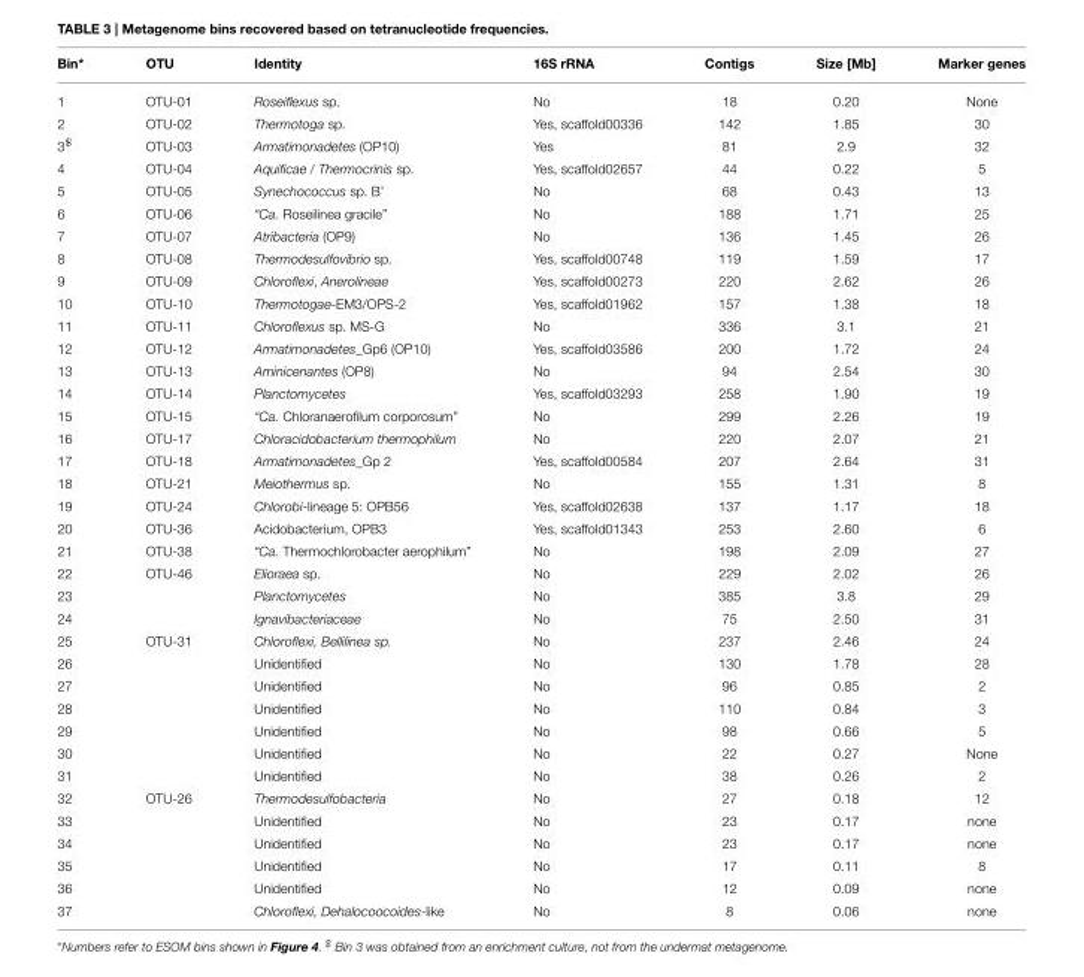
<table><thead><tr><td>Bin*</td><td>OTU</td><td>Identity</td><td>16S rRNA</td><td>Contigs</td><td>Size [Mb]</td><td>Marker genes</td></tr></thead><tbody><tr><td>1</td><td>OTU-01</td><td>Roseiflexus sp.</td><td>No</td><td>18</td><td>0.20</td><td>None</td></tr><tr><td>2</td><td>OTU-02</td><td>Thermotoga sp.</td><td>Yes, scaffold00336</td><td>142</td><td>1.85</td><td>30</td></tr><tr><td>3<sup>$</sup></td><td>OTU-03</td><td>Armatimonadetes (OP10)</td><td>Yes</td><td>81</td><td>2.9</td><td>32</td></tr><tr><td>4</td><td>OTU-04</td><td>Aquificae / Thermocrinis sp.</td><td>Yes, scaffold02657</td><td>44</td><td>0.22</td><td>5</td></tr><tr><td>5</td><td>OTU-05</td><td>Synechococcus sp. B’</td><td>No</td><td>68</td><td>0.43</td><td>13</td></tr><tr><td>6</td><td>OTU-06</td><td>“Ca. Roseilinea gracile”</td><td>No</td><td>188</td><td>1.71</td><td>25</td></tr><tr><td>7</td><td>OTU-07</td><td>Atribacteria (OP9)</td><td>No</td><td>136</td><td>1.45</td><td>26</td></tr><tr><td>8</td><td>OTU-08</td><td>Thermodesulfovibrio sp.</td><td>Yes, scaffold00748</td><td>119</td><td>1.59</td><td>17</td></tr><tr><td>9</td><td>OTU-09</td><td>Chloroflexi, Anerolineae</td><td>Yes, scaffold00273</td><td>220</td><td>2.62</td><td>26</td></tr><tr><td>10</td><td>OTU-10</td><td>Thermotogae-EM3/OPS-2</td><td>Yes, scaffold01962</td><td>157</td><td>1.38</td><td>18</td></tr><tr><td>11</td><td>OTU-11</td><td>Chloroflexus sp. MS-G</td><td>No</td><td>336</td><td>3.1</td><td>21</td></tr><tr><td>12</td><td>OTU-12</td><td>Armatimonadetes_Gp6 (OP10)</td><td>Yes, scaffold03586</td><td>200</td><td>1.72</td><td>24</td></tr><tr><td>13</td><td>OTU-13</td><td>Aminicenantes (OP8)</td><td>No</td><td>94</td><td>2.54</td><td>30</td></tr><tr><td>14</td><td>OTU-14</td><td>Planctomycetes</td><td>Yes, scaffold03293</td><td>258</td><td>1.90</td><td>19</td></tr><tr><td>15</td><td>OTU-15</td><td>“Ca. Chloranaerofilum corporosum”</td><td>No</td><td>299</td><td>2.26</td><td>19</td></tr><tr><td>16</td><td>OTU-17</td><td>Chloracidobacterium thermophilum</td><td>No</td><td>220</td><td>2.07</td><td>21</td></tr><tr><td>17</td><td>OTU-18</td><td>Armatimonadetes_Gp 2</td><td>Yes, scaffold00584</td><td>207</td><td>2.64</td><td>31</td></tr><tr><td>18</td><td>OTU-21</td><td>Meiothermus sp.</td><td>No</td><td>155</td><td>1.31</td><td>8</td></tr><tr><td>19</td><td>OTU-24</td><td>Chlorobi-lineage 5: OPB56</td><td>Yes, scaffold02638</td><td>137</td><td>1.17</td><td>18</td></tr><tr><td>20</td><td>OTU-36</td><td>Acidobacterium, OPB3</td><td>Yes, scaffold01343</td><td>253</td><td>2.60</td><td>6</td></tr><tr><td>21</td><td>OTU-38</td><td>“Ca. Thermochlorobacter aerophilum”</td><td>No</td><td>198</td><td>2.09</td><td>27</td></tr><tr><td>22</td><td>OTU-46</td><td>Elioraea sp.</td><td>No</td><td>229</td><td>2.02</td><td>26</td></tr><tr><td>23</td><td></td><td>Planctomycetes</td><td>No</td><td>385</td><td>3.8</td><td>29</td></tr><tr><td>24</td><td></td><td>Ignavibacteriaceae</td><td>No</td><td>75</td><td>2.50</td><td>31</td></tr><tr><td>25</td><td>OTU-31</td><td>Chloroflexi, Bellilinea sp.</td><td>No</td><td>237</td><td>2.46</td><td>24</td></tr><tr><td>26</td><td></td><td>Unidentified</td><td>No</td><td>130</td><td>1.78</td><td>28</td></tr><tr><td>27</td><td></td><td>Unidentified</td><td>No</td><td>96</td><td>0.85</td><td>2</td></tr><tr><td>28</td><td></td><td>Unidentified</td><td>No</td><td>110</td><td>0.84</td><td>3</td></tr><tr><td>29</td><td></td><td>Unidentified</td><td>No</td><td>98</td><td>0.66</td><td>5</td></tr><tr><td>30</td><td></td><td>Unidentified</td><td>No</td><td>22</td><td>0.27</td><td>None</td></tr><tr><td>31</td><td></td><td>Unidentified</td><td>No</td><td>38</td><td>0.26</td><td>2</td></tr><tr><td>32</td><td>OTU-26</td><td>Thermodesulfobacteria</td><td>No</td><td>27</td><td>0.18</td><td>12</td></tr><tr><td>33</td><td></td><td>Unidentified</td><td>No</td><td>23</td><td>0.17</td><td>none</td></tr><tr><td>34</td><td></td><td>Unidentified</td><td>No</td><td>23</td><td>0.17</td><td>none</td></tr><tr><td>35</td><td></td><td>Unidentified</td><td>No</td><td>17</td><td>0.11</td><td>8</td></tr><tr><td>36</td><td></td><td>Unidentified</td><td>No</td><td>12</td><td>0.09</td><td>none</td></tr><tr><td>37</td><td></td><td>Chloroflexi, Dehalocoocoides-like</td><td>No</td><td>8</td><td>0.06</td><td>none</td></tr></tbody></table>